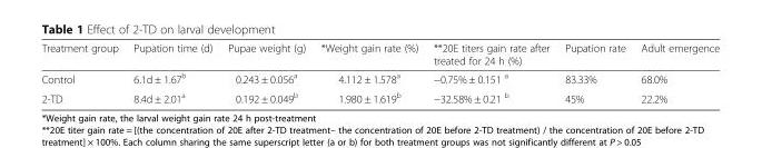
<table><thead><tr><td>Treatment group</td><td>Pupation time (d)</td><td>Pupae weight (g)</td><td>*Weight gain rate (%)</td><td>**20E titers gain rate after treated for 24 h (%)</td><td>Pupation rate</td><td>Adult emergence</td></tr></thead><tbody><tr><td>Control</td><td>6.1d ± 1.67<sup>b</sup></td><td>0.243 ± 0.056<sup>a</sup></td><td>4.112 ± 1.578<sup>a</sup></td><td>−0.75% ± 0.151 <sup>a</sup></td><td>83.33%</td><td>68.0%</td></tr><tr><td>2-TD</td><td>8.4d ± 2.01<sup>a</sup></td><td>0.192 ± 0.049<sup>b</sup></td><td>1.980 ± 1.619<sup>b</sup></td><td>−32.58% ± 0.21 <sup>b</sup></td><td>45%</td><td>22.2%</td></tr></tbody></table>